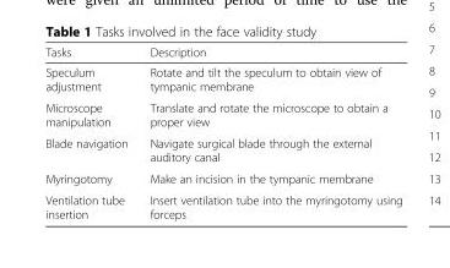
<table><thead><tr><td>Tasks</td><td>Description</td></tr></thead><tbody><tr><td>Speculum adjustment</td><td>Rotate and tilt the speculum to obtain view of tympanic membrane</td></tr><tr><td>Microscope manipulation</td><td>Translate and rotate the microscope to obtain a proper view</td></tr><tr><td>Blade navigation</td><td>Navigate surgical blade through the external auditory canal</td></tr><tr><td>Myringotomy</td><td>Make an incision in the tympanic membrane</td></tr><tr><td>Ventilation tube insertion</td><td>Insert ventilation tube into the myringotomy using forceps</td></tr></tbody></table>